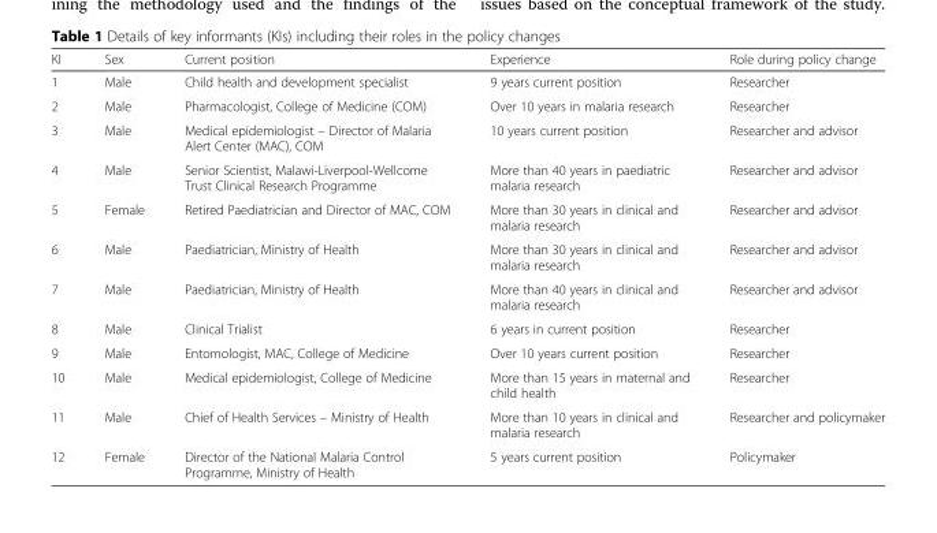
<table><thead><tr><td>KI</td><td>Sex</td><td>Current position</td><td>Experience</td><td>Role during policy change</td></tr></thead><tbody><tr><td>1</td><td>Male</td><td>Child health and development specialist</td><td>9 years current position</td><td>Researcher</td></tr><tr><td>2</td><td>Male</td><td>Pharmacologist, College of Medicine (COM)</td><td>Over 10 years in malaria research</td><td>Researcher</td></tr><tr><td>3</td><td>Male</td><td>Medical epidemiologist – Director of Malaria Alert Center (MAC), COM</td><td>10 years current position</td><td>Researcher and advisor</td></tr><tr><td>4</td><td>Male</td><td>Senior Scientist, Malawi-Liverpool-Wellcome Trust Clinical Research Programme</td><td>More than 40 years in paediatric malaria research</td><td>Researcher and advisor</td></tr><tr><td>5</td><td>Female</td><td>Retired Paediatrician and Director of MAC, COM</td><td>More than 30 years in clinical and malaria research</td><td>Researcher and advisor</td></tr><tr><td>6</td><td>Male</td><td>Paediatrician, Ministry of Health</td><td>More than 30 years in clinical and malaria research</td><td>Researcher and advisor</td></tr><tr><td>7</td><td>Male</td><td>Paediatrician, Ministry of Health</td><td>More than 40 years in clinical and malaria research</td><td>Researcher and advisor</td></tr><tr><td>8</td><td>Male</td><td>Clinical Trialist</td><td>6 years in current position</td><td>Researcher</td></tr><tr><td>9</td><td>Male</td><td>Entomologist, MAC, College of Medicine</td><td>Over 10 years current position</td><td>Researcher</td></tr><tr><td>10</td><td>Male</td><td>Medical epidemiologist, College of Medicine</td><td>More than 15 years in maternal and child health</td><td>Researcher</td></tr><tr><td>11</td><td>Male</td><td>Chief of Health Services – Ministry of Health</td><td>More than 10 years in clinical and malaria research</td><td>Researcher and policymaker</td></tr><tr><td>12</td><td>Female</td><td>Director of the National Malaria Control Programme, Ministry of Health</td><td>5 years current position</td><td>Policymaker</td></tr></tbody></table>